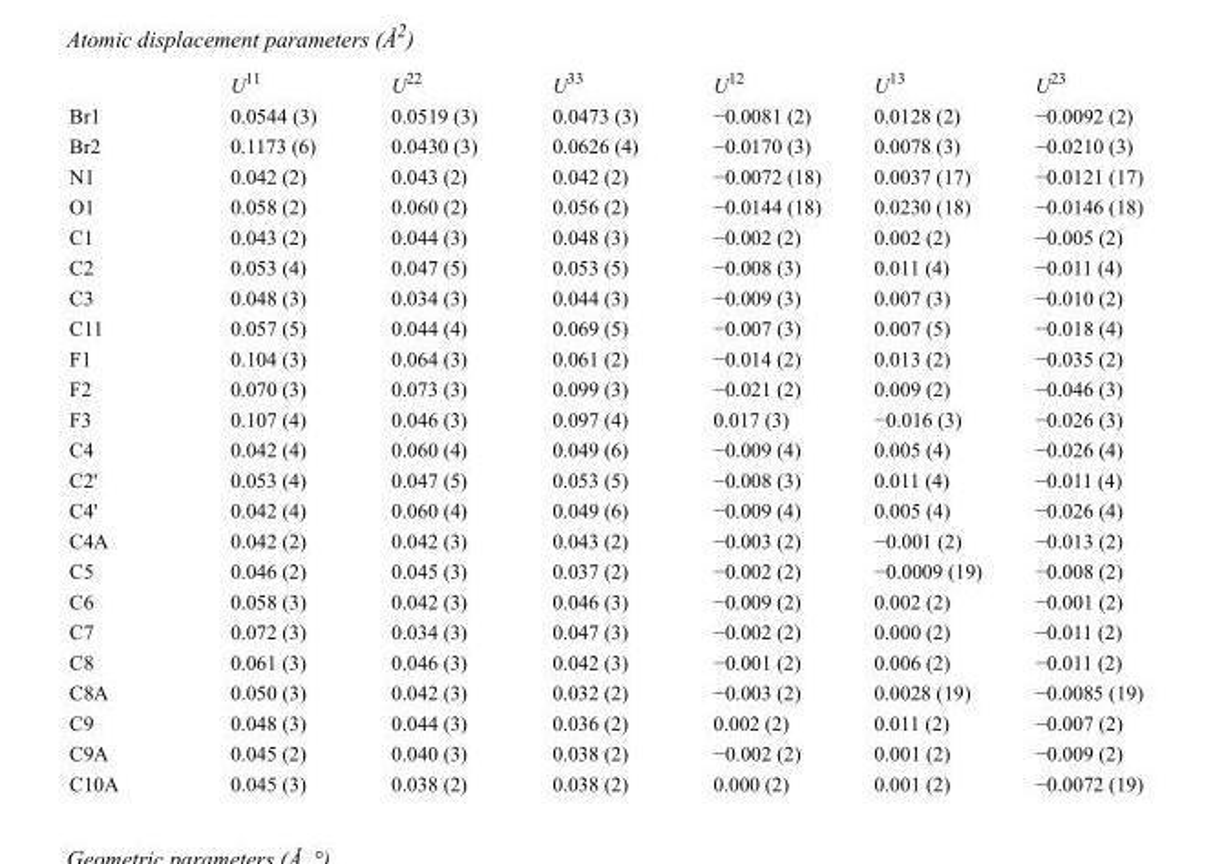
<table><thead><tr><td></td><td>U<sup>11</sup></td><td>U<sup>22</sup></td><td>U<sup>33</sup></td><td>U<sup>12</sup></td><td>U<sup>13</sup></td><td>U<sup>23</sup></td></tr></thead><tbody><tr><td>Br1</td><td>0.0544 (3)</td><td>0.0519 (3)</td><td>0.0473 (3)</td><td>−0.0081 (2)</td><td>0.0128 (2)</td><td>−0.0092 (2)</td></tr><tr><td>Br2</td><td>0.1173 (6)</td><td>0.0430 (3)</td><td>0.0626 (4)</td><td>−0.0170 (3)</td><td>0.0078 (3)</td><td>−0.0210 (3)</td></tr><tr><td>N1</td><td>0.042 (2)</td><td>0.043 (2)</td><td>0.042 (2)</td><td>−0.0072 (18)</td><td>0.0037 (17)</td><td>−0.0121 (17)</td></tr><tr><td>O1</td><td>0.058 (2)</td><td>0.060 (2)</td><td>0.056 (2)</td><td>−0.0144 (18)</td><td>0.0230 (18)</td><td>−0.0146 (18)</td></tr><tr><td>C1</td><td>0.043 (2)</td><td>0.044 (3)</td><td>0.048 (3)</td><td>−0.002 (2)</td><td>0.002 (2)</td><td>−0.005 (2)</td></tr><tr><td>C2</td><td>0.053 (4)</td><td>0.047 (5)</td><td>0.053 (5)</td><td>−0.008 (3)</td><td>0.011 (4)</td><td>−0.011 (4)</td></tr><tr><td>C3</td><td>0.048 (3)</td><td>0.034 (3)</td><td>0.044 (3)</td><td>−0.009 (3)</td><td>0.007 (3)</td><td>−0.010 (2)</td></tr><tr><td>C11</td><td>0.057 (5)</td><td>0.044 (4)</td><td>0.069 (5)</td><td>−0.007 (3)</td><td>0.007 (5)</td><td>−0.018 (4)</td></tr><tr><td>F1</td><td>0.104 (3)</td><td>0.064 (3)</td><td>0.061 (2)</td><td>−0.014 (2)</td><td>0.013 (2)</td><td>−0.035 (2)</td></tr><tr><td>F2</td><td>0.070 (3)</td><td>0.073 (3)</td><td>0.099 (3)</td><td>−0.021 (2)</td><td>0.009 (2)</td><td>−0.046 (3)</td></tr><tr><td>F3</td><td>0.107 (4)</td><td>0.046 (3)</td><td>0.097 (4)</td><td>0.017 (3)</td><td>−0.016 (3)</td><td>−0.026 (3)</td></tr><tr><td>C4</td><td>0.042 (4)</td><td>0.060 (4)</td><td>0.049 (6)</td><td>−0.009 (4)</td><td>0.005 (4)</td><td>−0.026 (4)</td></tr><tr><td>C2&#x27;</td><td>0.053 (4)</td><td>0.047 (5)</td><td>0.053 (5)</td><td>−0.008 (3)</td><td>0.011 (4)</td><td>−0.011 (4)</td></tr><tr><td>C4&#x27;</td><td>0.042 (4)</td><td>0.060 (4)</td><td>0.049 (6)</td><td>−0.009 (4)</td><td>0.005 (4)</td><td>−0.026 (4)</td></tr><tr><td>C4A</td><td>0.042 (2)</td><td>0.042 (3)</td><td>0.043 (2)</td><td>−0.003 (2)</td><td>−0.001 (2)</td><td>−0.013 (2)</td></tr><tr><td>C5</td><td>0.046 (2)</td><td>0.045 (3)</td><td>0.037 (2)</td><td>−0.002 (2)</td><td>−0.0009 (19)</td><td>−0.008 (2)</td></tr><tr><td>C6</td><td>0.058 (3)</td><td>0.042 (3)</td><td>0.046 (3)</td><td>−0.009 (2)</td><td>0.002 (2)</td><td>−0.001 (2)</td></tr><tr><td>C7</td><td>0.072 (3)</td><td>0.034 (3)</td><td>0.047 (3)</td><td>−0.002 (2)</td><td>0.000 (2)</td><td>−0.011 (2)</td></tr><tr><td>C8</td><td>0.061 (3)</td><td>0.046 (3)</td><td>0.042 (3)</td><td>−0.001 (2)</td><td>0.006 (2)</td><td>−0.011 (2)</td></tr><tr><td>C8A</td><td>0.050 (3)</td><td>0.042 (3)</td><td>0.032 (2)</td><td>−0.003 (2)</td><td>0.0028 (19)</td><td>−0.0085 (19)</td></tr><tr><td>C9</td><td>0.048 (3)</td><td>0.044 (3)</td><td>0.036 (2)</td><td>0.002 (2)</td><td>0.011 (2)</td><td>−0.007 (2)</td></tr><tr><td>C9A</td><td>0.045 (2)</td><td>0.040 (3)</td><td>0.038 (2)</td><td>−0.002 (2)</td><td>0.001 (2)</td><td>−0.009 (2)</td></tr><tr><td>C10A</td><td>0.045 (3)</td><td>0.038 (2)</td><td>0.038 (2)</td><td>0.000 (2)</td><td>0.001 (2)</td><td>−0.0072 (19)</td></tr></tbody></table>